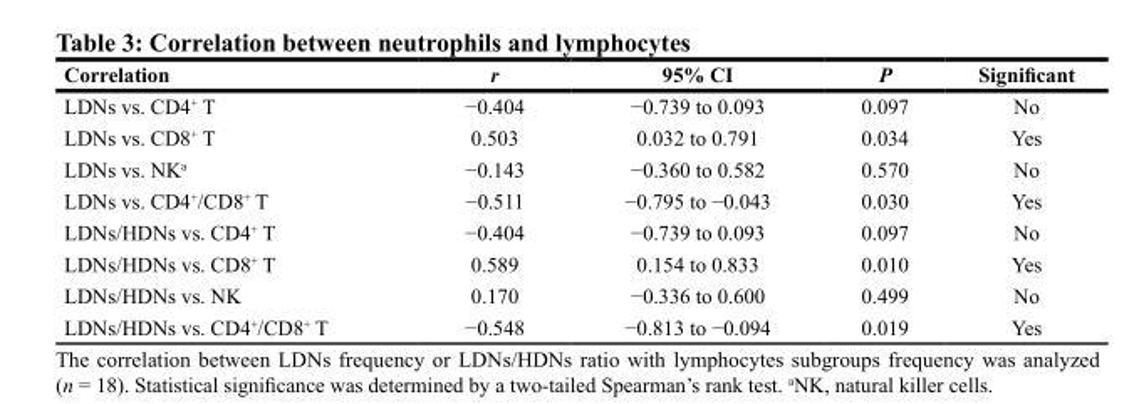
<table><thead><tr><td>Correlation</td><td>r</td><td>95% CI</td><td>P</td><td>Significant</td></tr></thead><tbody><tr><td>LDNs vs. CD4<sup>+</sup> T</td><td>−0.404</td><td>−0.739 to 0.093</td><td>0.097</td><td>No</td></tr><tr><td>LDNs vs. CD8<sup>+</sup> T</td><td>0.503</td><td>0.032 to 0.791</td><td>0.034</td><td>Yes</td></tr><tr><td>LDNs vs. NK<sup>a</sup></td><td>−0.143</td><td>−0.360 to 0.582</td><td>0.570</td><td>No</td></tr><tr><td>LDNs vs. CD4<sup>+</sup>/CD8<sup>+</sup> T</td><td>−0.511</td><td>−0.795 to −0.043</td><td>0.030</td><td>Yes</td></tr><tr><td>LDNs/HDNs vs. CD4<sup>+</sup> T</td><td>−0.404</td><td>−0.739 to 0.093</td><td>0.097</td><td>No</td></tr><tr><td>LDNs/HDNs vs. CD8<sup>+</sup> T</td><td>0.589</td><td>0.154 to 0.833</td><td>0.010</td><td>Yes</td></tr><tr><td>LDNs/HDNs vs. NK</td><td>0.170</td><td>−0.336 to 0.600</td><td>0.499</td><td>No</td></tr><tr><td>LDNs/HDNs vs. CD4<sup>+</sup>/CD8<sup>+</sup> T</td><td>−0.548</td><td>−0.813 to −0.094</td><td>0.019</td><td>Yes</td></tr></tbody></table>